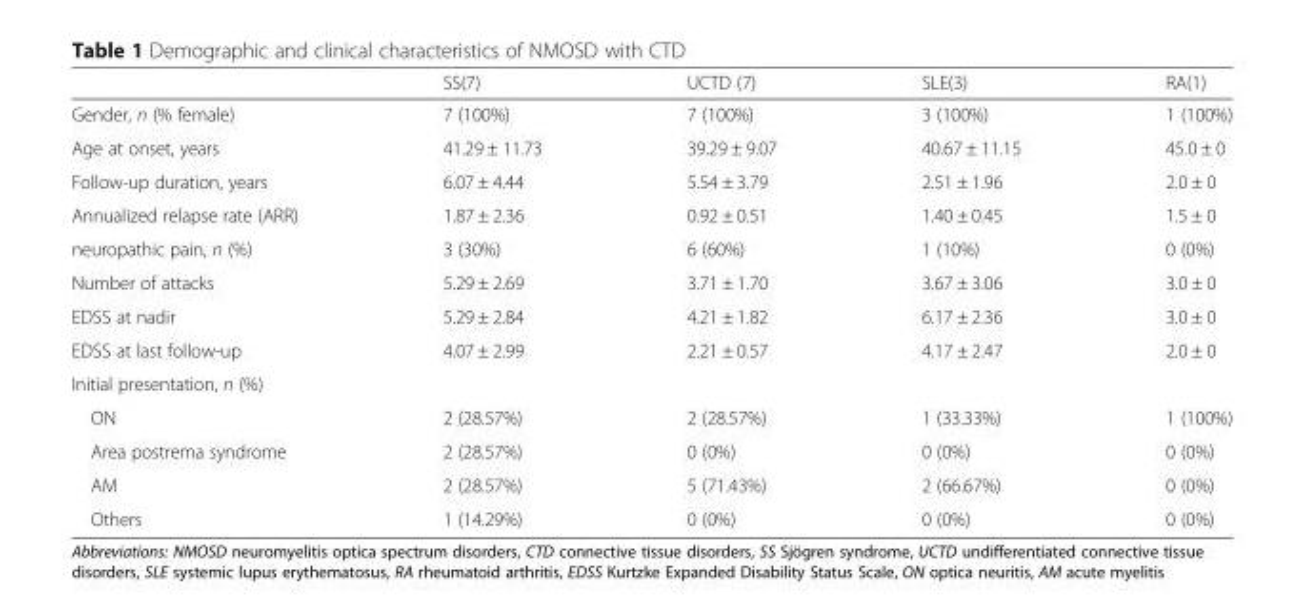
<table><thead><tr><td></td><td>SS(7)</td><td>UCTD (7)</td><td>SLE(3)</td><td>RA(1)</td></tr></thead><tbody><tr><td>Gender, n (% female)</td><td>7 (100%)</td><td>7 (100%)</td><td>3 (100%)</td><td>1 (100%)</td></tr><tr><td>Age at onset, years</td><td>41.29 ± 11.73</td><td>39.29 ± 9.07</td><td>40.67 ± 11.15</td><td>45.0 ± 0</td></tr><tr><td>Follow-up duration, years</td><td>6.07 ± 4.44</td><td>5.54 ± 3.79</td><td>2.51 ± 1.96</td><td>2.0 ± 0</td></tr><tr><td>Annualized relapse rate (ARR)</td><td>1.87 ± 2.36</td><td>0.92 ± 0.51</td><td>1.40 ± 0.45</td><td>1.5 ± 0</td></tr><tr><td>neuropathic pain, n (%)</td><td>3 (30%)</td><td>6 (60%)</td><td>1 (10%)</td><td>0 (0%)</td></tr><tr><td>Number of attacks</td><td>5.29 ± 2.69</td><td>3.71 ± 1.70</td><td>3.67 ± 3.06</td><td>3.0 ± 0</td></tr><tr><td>EDSS at nadir</td><td>5.29 ± 2.84</td><td>4.21 ± 1.82</td><td>6.17 ± 2.36</td><td>3.0 ± 0</td></tr><tr><td>EDSS at last follow-up</td><td>4.07 ± 2.99</td><td>2.21 ± 0.57</td><td>4.17 ± 2.47</td><td>2.0 ± 0</td></tr><tr><td colspan="5">Initial presentation, n (%)</td></tr><tr><td>ON</td><td>2 (28.57%)</td><td>2 (28.57%)</td><td>1 (33.33%)</td><td>1 (100%)</td></tr><tr><td>Area postrema syndrome</td><td>2 (28.57%)</td><td>0 (0%)</td><td>0 (0%)</td><td>0 (0%)</td></tr><tr><td>AM</td><td>2 (28.57%)</td><td>5 (71.43%)</td><td>2 (66.67%)</td><td>0 (0%)</td></tr><tr><td>Others</td><td>1 (14.29%)</td><td>0 (0%)</td><td>0 (0%)</td><td>0 (0%)</td></tr></tbody></table>